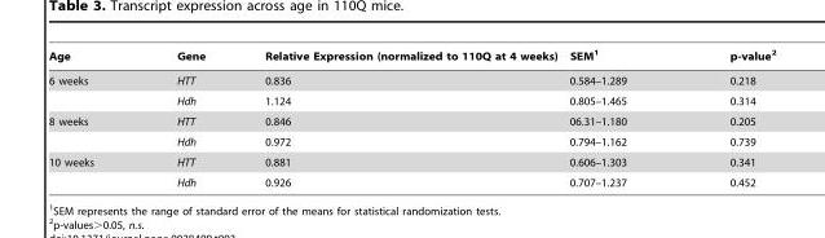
<table><thead><tr><td>Age</td><td>Gene</td><td>Relative Expression (normalized to 110Q at 4 weeks)</td><td>SEM<sup>1</sup></td><td>p-value<sup>2</sup></td></tr></thead><tbody><tr><td rowspan="2">6 weeks</td><td>HTT</td><td>0.836</td><td>0.584–1.289</td><td>0.218</td></tr><tr><td>Hdh</td><td>1.124</td><td>0.805–1.465</td><td>0.314</td></tr><tr><td rowspan="2">8 weeks</td><td>HTT</td><td>0.846</td><td>06.31–1.180</td><td>0.205</td></tr><tr><td>Hdh</td><td>0.972</td><td>0.794–1.162</td><td>0.739</td></tr><tr><td rowspan="2">10 weeks</td><td>HTT</td><td>0.881</td><td>0.606–1.303</td><td>0.341</td></tr><tr><td>Hdh</td><td>0.926</td><td>0.707–1.237</td><td>0.452</td></tr></tbody></table>